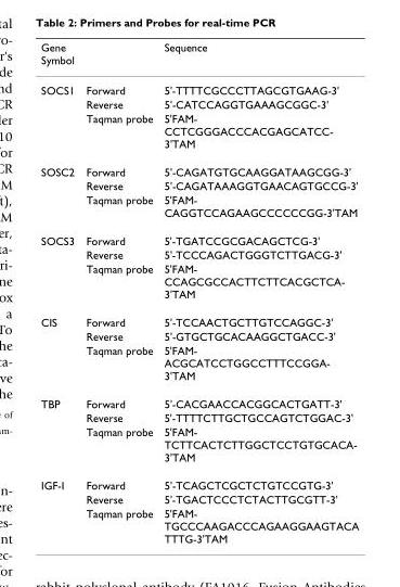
<table><thead><tr><td>Gene Symbol</td><td></td><td>Sequence</td></tr></thead><tbody><tr><td rowspan="3">SOCS1</td><td>Forward</td><td>5&#x27;-TTTTCGCCCTTAGCGTGAAG-3&#x27;</td></tr><tr><td>Reverse</td><td>5&#x27;-CATCCAGGTGAAAGCGGC-3&#x27;</td></tr><tr><td>Taqman probe</td><td>5&#x27;FAM- CCTCGGGACCCACGAGCATCC- 3&#x27;TAM</td></tr><tr><td rowspan="3">SOSC2</td><td>Forward</td><td>5&#x27;-CAGATGTGCAAGGATAAGCGG-3&#x27;</td></tr><tr><td>Reverse</td><td>5&#x27;-CAGATAAAGGTGAACAGTGCCG-3&#x27;</td></tr><tr><td>Taqman probe</td><td>5&#x27;FAM- CAGGTCCAGAAGCCCCCCGG-3&#x27;TAM</td></tr><tr><td rowspan="3">SOCS3</td><td>Forward</td><td>5&#x27;-TGATCCGCGACAGCTCG-3&#x27;</td></tr><tr><td>Reverse</td><td>5&#x27;-TCCCAGACTGGGTCTTGACG-3&#x27;</td></tr><tr><td>Taqman probe</td><td>5&#x27;FAM- CCAGCGCCACTTCTTCACGCTCA- 3&#x27;TAM</td></tr><tr><td rowspan="3">CIS</td><td>Forward</td><td>5&#x27;-TCCAACTGCTTGTCCAGGC-3&#x27;</td></tr><tr><td>Reverse</td><td>5&#x27;-GTGCTGCACAAGGCTGACC-3&#x27;</td></tr><tr><td>Taqman probe</td><td>5&#x27;FAM- ACGCATCCTGGCCTTTCCGGA- 3&#x27;TAM</td></tr><tr><td rowspan="3">TBP</td><td>Forward</td><td>5&#x27;-CACGAACCACGGCACTGATT-3&#x27;</td></tr><tr><td>Reverse</td><td>5&#x27;-TTTTCTTGCTGCCAGTCTGGAC-3&#x27;</td></tr><tr><td>Taqman probe</td><td>5&#x27;FAM- TCTTCACTCTTGGCTCCTGTGCACA- 3&#x27;TAM</td></tr><tr><td rowspan="3">IGF-I</td><td>Forward</td><td>5&#x27;-TCAGCTCGCTCTGTCCGTG-3&#x27;</td></tr><tr><td>Reverse</td><td>5&#x27;-TGACTCCCTCTACTTGCGTT-3&#x27;</td></tr><tr><td>Taqman probe</td><td>5&#x27;FAM- TGCCCAAGACCCAGAAGGAAGTACA TTTG-3&#x27;TAM</td></tr></tbody></table>